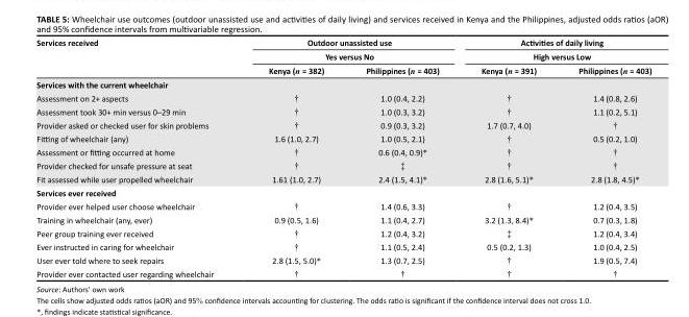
<table><thead><tr><td rowspan="3">Services received</td><td rowspan="2" colspan="2">Outdoor unassisted use Yes versus No</td><td rowspan="2" colspan="2">Activities of daily living High versus Low</td></tr><tr></tr><tr><td>Kenya (n = 382)</td><td>Philippines (n = 403)</td><td>Kenya (n = 391)</td><td>Philippines (n = 403)</td></tr></thead><tbody><tr><td colspan="5">Services with the current wheelchair</td></tr><tr><td>Assessment on 2+ aspects</td><td>†</td><td>1.0 (0.4, 2.2)</td><td>†</td><td>1.4 (0.8, 2.6)</td></tr><tr><td>Assessment took 30+ min versus 0–29 min</td><td>†</td><td>1.0 (0.3, 3.2)</td><td>†</td><td>1.1 (0.2, 5.1)</td></tr><tr><td>Provider asked or checked user for skin problems</td><td>†</td><td>0.9 (0.3, 3.2)</td><td>1.7 (0.7, 4.0)</td><td>†</td></tr><tr><td>Fitting of wheelchair (any)</td><td>1.6 (1.0, 2.7)</td><td>1.0 (0.5, 2.1)</td><td>†</td><td>0.5 (0.2, 1.0)</td></tr><tr><td>Assessment or fitting occurred at home</td><td>†</td><td>0.6 (0.4, 0.9)*</td><td>†</td><td>†</td></tr><tr><td>Provider checked for unsafe pressure at seat</td><td>†</td><td>‡</td><td>†</td><td>†</td></tr><tr><td>Fit assessed while user propelled wheelchair</td><td>1.61 (1.0, 2.7)</td><td>2.4 (1.5, 4.1)*</td><td>2.8 (1.6, 5.1)*</td><td>2.8 (1.8, 4.5)*</td></tr><tr><td colspan="5">Services ever received</td></tr><tr><td>Provider ever helped user choose wheelchair</td><td>†</td><td>1.4 (0.6, 3.3)</td><td>†</td><td>1.2 (0.4, 3.5)</td></tr><tr><td>Training in wheelchair (any, ever)</td><td>0.9 (0.5, 1.6)</td><td>1.1 (0.4, 2.7)</td><td>3.2 (1.3, 8.4)*</td><td>0.7 (0.3, 1.8)</td></tr><tr><td>Peer group training ever received</td><td>†</td><td>1.2 (0.4, 3.2)</td><td>‡</td><td>1.2 (0.4, 3.4)</td></tr><tr><td>Ever instructed in caring for wheelchair</td><td>†</td><td>1.1 (0.5, 2.4)</td><td>0.5 (0.2, 1.3)</td><td>1.0 (0.4, 2.5)</td></tr><tr><td>User ever told where to seek repairs</td><td>2.8 (1.5, 5.0)*</td><td>1.3 (0.7, 2.5)</td><td>†</td><td>1.9 (0.5, 7.4)</td></tr><tr><td>Provider ever contacted user regarding wheelchair</td><td>†</td><td>†</td><td>†</td><td>†</td></tr></tbody></table>